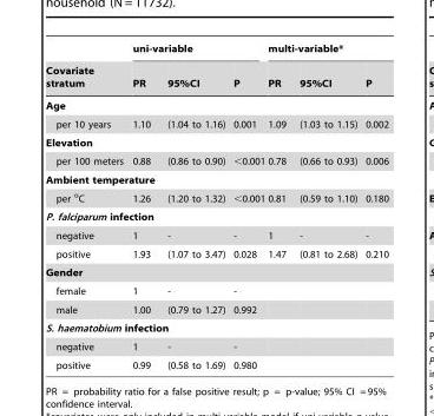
<table><thead><tr><td rowspan="2">Covariate stratum</td><td colspan="3">uni-variable</td><td colspan="3">multi-variable*</td></tr><tr><td>PR</td><td>95%CI</td><td>P</td><td>PR</td><td>95%CI</td><td>P</td></tr></thead><tbody><tr><td colspan="7">Age</td></tr><tr><td>per 10 years</td><td>1.10</td><td>(1.04 to 1.16)</td><td>0.001</td><td>1.09</td><td>(1.03 to 1.15)</td><td>0.002</td></tr><tr><td colspan="7">Elevation</td></tr><tr><td>per 100 meters</td><td>0.88</td><td>(0.86 to 0.90)</td><td>&lt;0.001</td><td>0.78</td><td>(0.66 to 0.93)</td><td>0.006</td></tr><tr><td colspan="7">Ambient temperature</td></tr><tr><td>per <sup>o</sup>C</td><td>1.26</td><td>(1.20 to 1.32)</td><td>&lt;0.001</td><td>0.81</td><td>(0.59 to 1.10)</td><td>0.180</td></tr><tr><td colspan="7">P. falciparum infection</td></tr><tr><td>negative</td><td>1</td><td>-</td><td>-</td><td>1</td><td>-</td><td>-</td></tr><tr><td>positive</td><td>1.93</td><td>(1.07 to 3.47)</td><td>0.028</td><td>1.47</td><td>(0.81 to 2.68)</td><td>0.210</td></tr><tr><td colspan="7">Gender</td></tr><tr><td>female</td><td>1</td><td>-</td><td>-</td><td></td><td></td><td></td></tr><tr><td>male</td><td>1.00</td><td>(0.79 to 1.27)</td><td>0.992</td><td></td><td></td><td></td></tr><tr><td colspan="7">S. haematobium infection</td></tr><tr><td>negative</td><td>1</td><td>-</td><td>-</td><td></td><td></td><td></td></tr><tr><td>positive</td><td>0.99</td><td>(0.58 to 1.69)</td><td>0.980</td><td></td><td></td><td></td></tr></tbody></table>